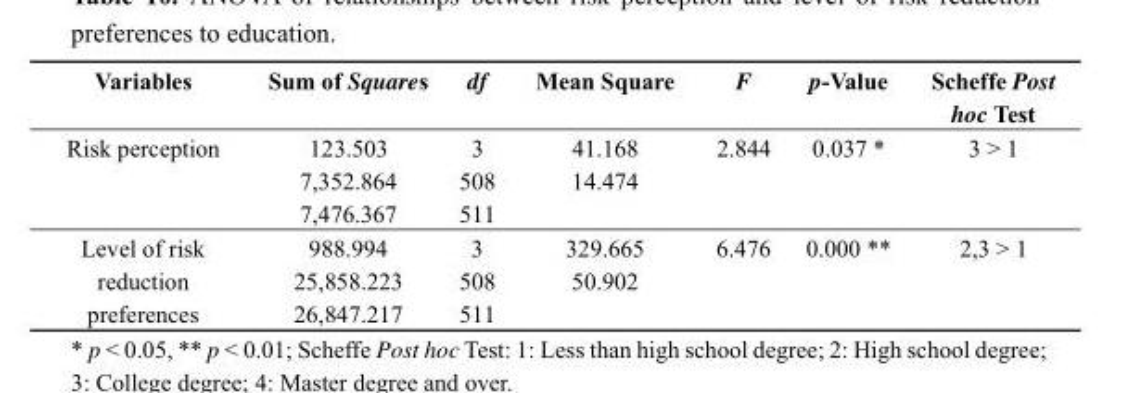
<table><thead><tr><td>Variables</td><td>Sum of Squares</td><td>df</td><td>Mean Square</td><td>F</td><td>p-Value</td><td>Scheffe Post hoc Test</td></tr></thead><tbody><tr><td rowspan="3">Risk perception</td><td>123.503</td><td>3</td><td>41.168</td><td>2.844</td><td>0.037 *</td><td>3 &gt; 1</td></tr><tr><td>7,352.864</td><td>508</td><td>14.474</td><td></td><td></td><td></td></tr><tr><td>7,476.367</td><td>511</td><td></td><td></td><td></td><td></td></tr><tr><td rowspan="3">Level of risk reduction preferences</td><td>988.994</td><td>3</td><td>329.665</td><td>6.476</td><td>0.000 **</td><td>2,3 &gt; 1</td></tr><tr><td>25,858.223</td><td>508</td><td>50.902</td><td></td><td></td><td></td></tr><tr><td>26,847.217</td><td>511</td><td></td><td></td><td></td><td></td></tr></tbody></table>